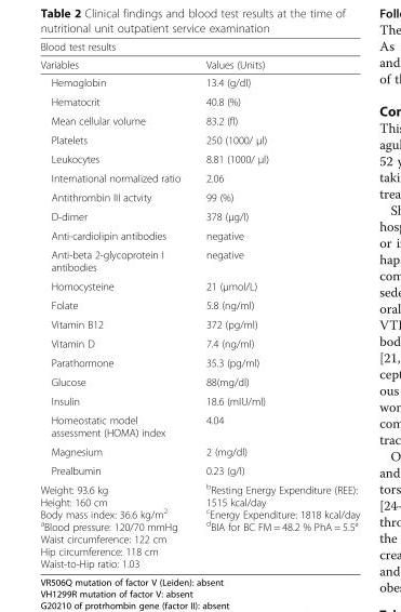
<table><thead><tr><td colspan="2">Blood test results</td></tr><tr><td>Variables</td><td>Values (Units)</td></tr></thead><tbody><tr><td>Hemoglobin</td><td>13.4 (g/dl)</td></tr><tr><td>Hematocrit</td><td>40.8 (%)</td></tr><tr><td>Mean cellular volume</td><td>83.2 (fl)</td></tr><tr><td>Platelets</td><td>250 (1000/ μl)</td></tr><tr><td>Leukocytes</td><td>8.81 (1000/ μl)</td></tr><tr><td>International normalized ratio</td><td>2.06</td></tr><tr><td>Antithrombin III actvity</td><td>99 (%)</td></tr><tr><td>D-dimer</td><td>378 (μg/l)</td></tr><tr><td>Anti-cardiolipin antibodies</td><td>negative</td></tr><tr><td>Anti-beta 2-glycoprotein I antibodies</td><td>negative</td></tr><tr><td>Homocysteine</td><td>21 (μmol/L)</td></tr><tr><td>Folate</td><td>5.8 (ng/ml)</td></tr><tr><td>Vitamin B12</td><td>372 (pg/ml)</td></tr><tr><td>Vitamin D</td><td>7.4 (ng/ml)</td></tr><tr><td>Parathormone</td><td>35.3 (pg/ml)</td></tr><tr><td>Glucose</td><td>88(mg/dl)</td></tr><tr><td>Insulin</td><td>18.6 (mIU/ml)</td></tr><tr><td>Homeostatic model assessment (HOMA) index</td><td>4.04</td></tr><tr><td>Magnesium</td><td>2 (mg/dl)</td></tr><tr><td>Prealbumin</td><td>0.23 (g/l)</td></tr><tr><td>Weight: 93.6 kg Height: 160 cm Body mass index: 36.6 kg/m<sup>2 a</sup>Blood pressure: 120/70 mmHg Waist circumference: 122 cm Hip circumference: 118 cm Waist-to-Hip ratio: 1.03</td><td><sup>b</sup>Resting Energy Expenditure (REE): 1515 kcal/day <sup>c</sup>Energy Expenditure: 1818 kcal/day <sup>d</sup>BIA for BC FM = 48.2 % PhA = 5.5°</td></tr></tbody></table>